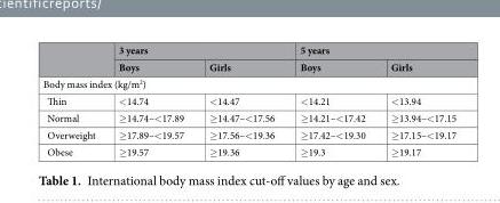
<table><thead><tr><td rowspan="2"></td><td colspan="2">3 years</td><td colspan="2">5 years</td></tr><tr><td>Boys</td><td>Girls</td><td>Boys</td><td>Girls</td></tr></thead><tbody><tr><td colspan="5">Body mass index (kg/m<sup>2</sup>)</td></tr><tr><td>Thin</td><td>&lt;14.74</td><td>&lt;14.47</td><td>&lt;14.21</td><td>&lt;13.94</td></tr><tr><td>Normal</td><td>≥14.74–&lt;17.89</td><td>≥14.47–&lt;17.56</td><td>≥14.21–&lt;17.42</td><td>≥13.94–&lt;17.15</td></tr><tr><td>Overweight</td><td>≥17.89–&lt;19.57</td><td>≥17.56–&lt;19.36</td><td>≥17.42–&lt;19.30</td><td>≥17.15–&lt;19.17</td></tr><tr><td>Obese</td><td>≥19.57</td><td>≥19.36</td><td>≥19.3</td><td>≥19.17</td></tr></tbody></table>